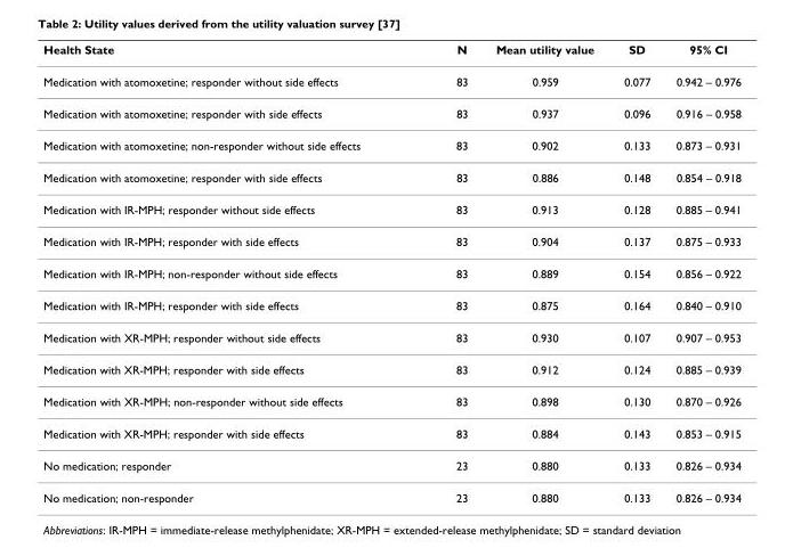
<table><thead><tr><td>Health State</td><td>N</td><td>Mean utility value</td><td>SD</td><td>95% CI</td></tr></thead><tbody><tr><td>Medication with atomoxetine; responder without side effects</td><td>83</td><td>0.959</td><td>0.077</td><td>0.942 – 0.976</td></tr><tr><td>Medication with atomoxetine; responder with side effects</td><td>83</td><td>0.937</td><td>0.096</td><td>0.916 – 0.958</td></tr><tr><td>Medication with atomoxetine; non-responder without side effects</td><td>83</td><td>0.902</td><td>0.133</td><td>0.873 – 0.931</td></tr><tr><td>Medication with atomoxetine; responder with side effects</td><td>83</td><td>0.886</td><td>0.148</td><td>0.854 – 0.918</td></tr><tr><td>Medication with IR-MPH; responder without side effects</td><td>83</td><td>0.913</td><td>0.128</td><td>0.885 – 0.941</td></tr><tr><td>Medication with IR-MPH; responder with side effects</td><td>83</td><td>0.904</td><td>0.137</td><td>0.875 – 0.933</td></tr><tr><td>Medication with IR-MPH; non-responder without side effects</td><td>83</td><td>0.889</td><td>0.154</td><td>0.856 – 0.922</td></tr><tr><td>Medication with IR-MPH; responder with side effects</td><td>83</td><td>0.875</td><td>0.164</td><td>0.840 – 0.910</td></tr><tr><td>Medication with XR-MPH; responder without side effects</td><td>83</td><td>0.930</td><td>0.107</td><td>0.907 – 0.953</td></tr><tr><td>Medication with XR-MPH; responder with side effects</td><td>83</td><td>0.912</td><td>0.124</td><td>0.885 – 0.939</td></tr><tr><td>Medication with XR-MPH; non-responder without side effects</td><td>83</td><td>0.898</td><td>0.130</td><td>0.870 – 0.926</td></tr><tr><td>Medication with XR-MPH; responder with side effects</td><td>83</td><td>0.884</td><td>0.143</td><td>0.853 – 0.915</td></tr><tr><td>No medication; responder</td><td>23</td><td>0.880</td><td>0.133</td><td>0.826 – 0.934</td></tr><tr><td>No medication; non-responder</td><td>23</td><td>0.880</td><td>0.133</td><td>0.826 – 0.934</td></tr></tbody></table>